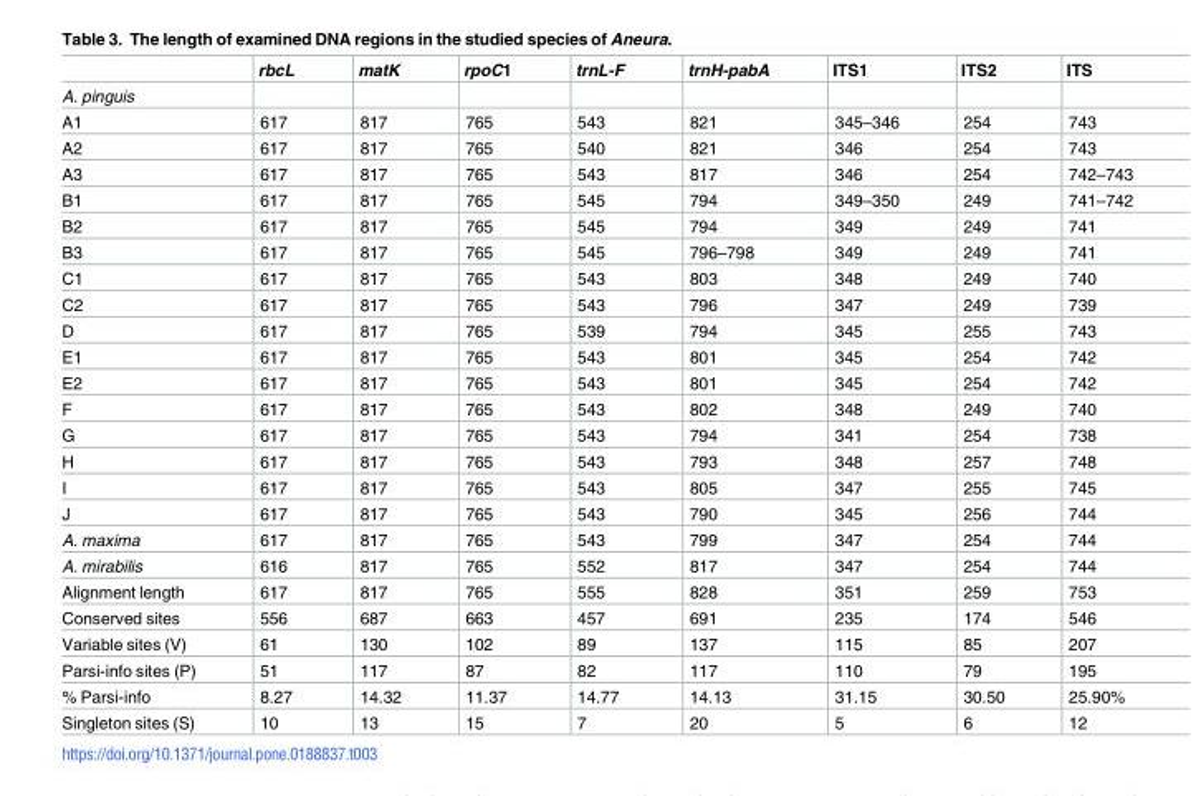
<table><thead><tr><td></td><td>rbcL</td><td>matK</td><td>rpoC1</td><td>trnL-F</td><td>trnH-pabA</td><td>ITS1</td><td>ITS2</td><td>ITS</td></tr></thead><tbody><tr><td colspan="9">A. pinguis</td></tr><tr><td>A1</td><td>617</td><td>817</td><td>765</td><td>543</td><td>821</td><td>345–346</td><td>254</td><td>743</td></tr><tr><td>A2</td><td>617</td><td>817</td><td>765</td><td>540</td><td>821</td><td>346</td><td>254</td><td>743</td></tr><tr><td>A3</td><td>617</td><td>817</td><td>765</td><td>543</td><td>817</td><td>346</td><td>254</td><td>742–743</td></tr><tr><td>B1</td><td>617</td><td>817</td><td>765</td><td>545</td><td>794</td><td>349–350</td><td>249</td><td>741–742</td></tr><tr><td>B2</td><td>617</td><td>817</td><td>765</td><td>545</td><td>794</td><td>349</td><td>249</td><td>741</td></tr><tr><td>B3</td><td>617</td><td>817</td><td>765</td><td>545</td><td>796–798</td><td>349</td><td>249</td><td>741</td></tr><tr><td>C1</td><td>617</td><td>817</td><td>765</td><td>543</td><td>803</td><td>348</td><td>249</td><td>740</td></tr><tr><td>C2</td><td>617</td><td>817</td><td>765</td><td>543</td><td>796</td><td>347</td><td>249</td><td>739</td></tr><tr><td>D</td><td>617</td><td>817</td><td>765</td><td>539</td><td>794</td><td>345</td><td>255</td><td>743</td></tr><tr><td>E1</td><td>617</td><td>817</td><td>765</td><td>543</td><td>801</td><td>345</td><td>254</td><td>742</td></tr><tr><td>E2</td><td>617</td><td>817</td><td>765</td><td>543</td><td>801</td><td>345</td><td>254</td><td>742</td></tr><tr><td>F</td><td>617</td><td>817</td><td>765</td><td>543</td><td>802</td><td>348</td><td>249</td><td>740</td></tr><tr><td>G</td><td>617</td><td>817</td><td>765</td><td>543</td><td>794</td><td>341</td><td>254</td><td>738</td></tr><tr><td>H</td><td>617</td><td>817</td><td>765</td><td>543</td><td>793</td><td>348</td><td>257</td><td>748</td></tr><tr><td>I</td><td>617</td><td>817</td><td>765</td><td>543</td><td>805</td><td>347</td><td>255</td><td>745</td></tr><tr><td>J</td><td>617</td><td>817</td><td>765</td><td>543</td><td>790</td><td>345</td><td>256</td><td>744</td></tr><tr><td>A. maxima</td><td>617</td><td>817</td><td>765</td><td>543</td><td>799</td><td>347</td><td>254</td><td>744</td></tr><tr><td>A. mirabilis</td><td>616</td><td>817</td><td>765</td><td>552</td><td>817</td><td>347</td><td>254</td><td>744</td></tr><tr><td>Alignment length</td><td>617</td><td>817</td><td>765</td><td>555</td><td>828</td><td>351</td><td>259</td><td>753</td></tr><tr><td>Conserved sites</td><td>556</td><td>687</td><td>663</td><td>457</td><td>691</td><td>235</td><td>174</td><td>546</td></tr><tr><td>Variable sites (V)</td><td>61</td><td>130</td><td>102</td><td>89</td><td>137</td><td>115</td><td>85</td><td>207</td></tr><tr><td>Parsi-info sites (P)</td><td>51</td><td>117</td><td>87</td><td>82</td><td>117</td><td>110</td><td>79</td><td>195</td></tr><tr><td>% Parsi-info</td><td>8.27</td><td>14.32</td><td>11.37</td><td>14.77</td><td>14.13</td><td>31.15</td><td>30.50</td><td>25.90%</td></tr><tr><td>Singleton sites (S)</td><td>10</td><td>13</td><td>15</td><td>7</td><td>20</td><td>5</td><td>6</td><td>12</td></tr></tbody></table>